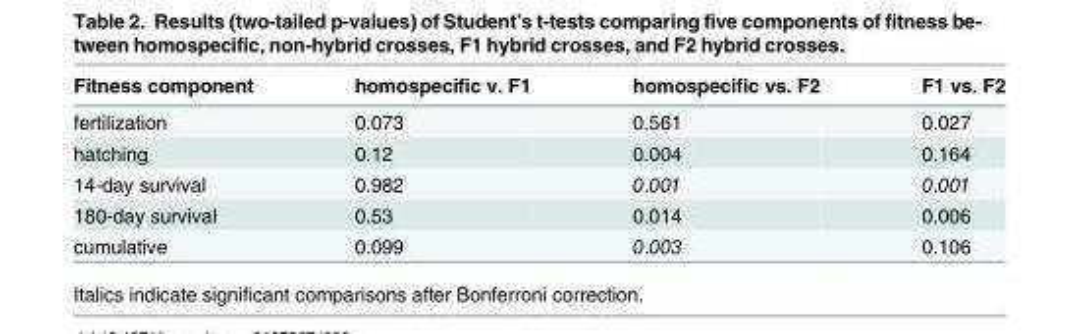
<table><thead><tr><td>Fitness component</td><td>homospecific v. F1</td><td>homospecific vs. F2</td><td>F1 vs. F2</td></tr></thead><tbody><tr><td>fertilization</td><td>0.073</td><td>0.561</td><td>0.027</td></tr><tr><td>hatching</td><td>0.12</td><td>0.004</td><td>0.164</td></tr><tr><td>14-day survival</td><td>0.982</td><td>0.001</td><td>0.001</td></tr><tr><td>180-day survival</td><td>0.53</td><td>0.014</td><td>0.006</td></tr><tr><td>cumulative</td><td>0.099</td><td>0.003</td><td>0.106</td></tr></tbody></table>